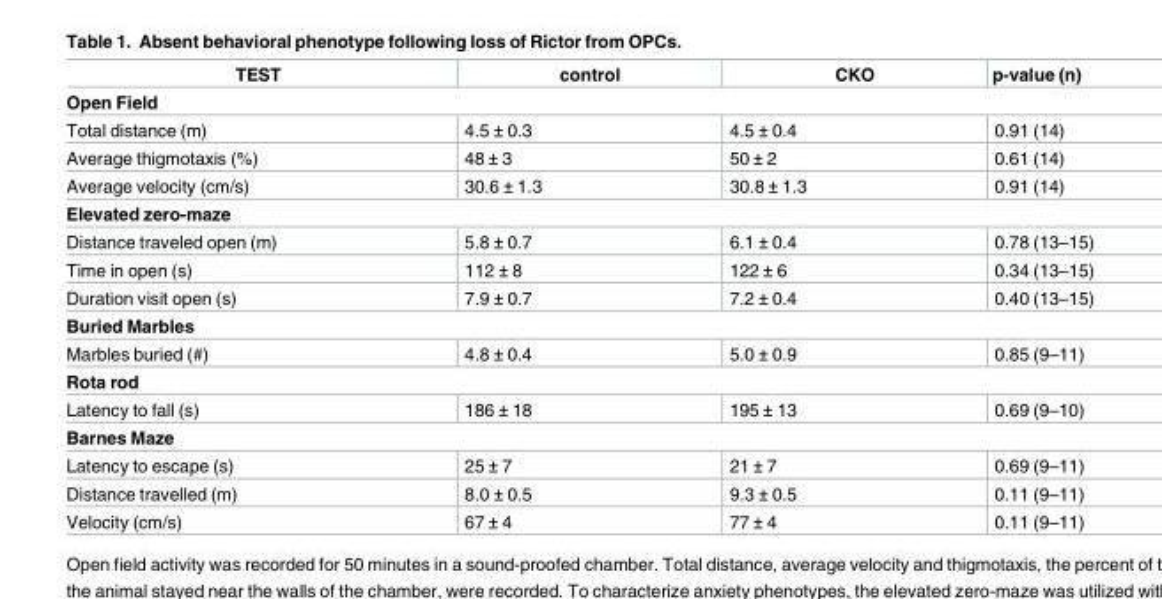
<table><thead><tr><td>TEST</td><td>control</td><td>CKO</td><td>p-value (n)</td></tr></thead><tbody><tr><td colspan="4">Open Field</td></tr><tr><td>Total distance (m)</td><td>4.5 ± 0.3</td><td>4.5 ± 0.4</td><td>0.91 (14)</td></tr><tr><td>Average thigmotaxis (%)</td><td>48 ± 3</td><td>50 ± 2</td><td>0.61 (14)</td></tr><tr><td>Average velocity (cm/s)</td><td>30.6 ± 1.3</td><td>30.8 ± 1.3</td><td>0.91 (14)</td></tr><tr><td colspan="4">Elevated zero-maze</td></tr><tr><td>Distance traveled open (m)</td><td>5.8 ± 0.7</td><td>6.1 ± 0.4</td><td>0.78 (13–15)</td></tr><tr><td>Time in open (s)</td><td>112 ± 8</td><td>122 ± 6</td><td>0.34 (13–15)</td></tr><tr><td>Duration visit open (s)</td><td>7.9 ± 0.7</td><td>7.2 ± 0.4</td><td>0.40 (13–15)</td></tr><tr><td colspan="4">Buried Marbles</td></tr><tr><td>Marbles buried (#)</td><td>4.8 ± 0.4</td><td>5.0 ± 0.9</td><td>0.85 (9–11)</td></tr><tr><td colspan="4">Rota rod</td></tr><tr><td>Latency to fall (s)</td><td>186 ± 18</td><td>195 ± 13</td><td>0.69 (9–10)</td></tr><tr><td colspan="4">Barnes Maze</td></tr><tr><td>Latency to escape (s)</td><td>25 ± 7</td><td>21 ± 7</td><td>0.69 (9–11)</td></tr><tr><td>Distance travelled (m)</td><td>8.0 ± 0.5</td><td>9.3 ± 0.5</td><td>0.11 (9–11)</td></tr><tr><td>Velocity (cm/s)</td><td>67 ± 4</td><td>77 ± 4</td><td>0.11 (9–11)</td></tr></tbody></table>